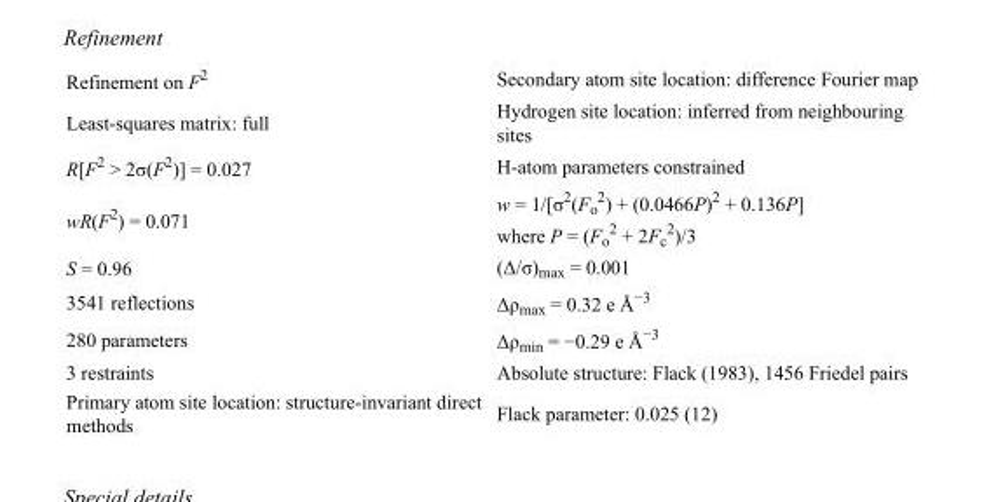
<table><tbody><tr><td>Refinement on F<sup>2</sup></td><td>Secondary atom site location: difference Fourier map</td></tr><tr><td>Least-squares matrix: full</td><td>Hydrogen site location: inferred from neighbouring sites</td></tr><tr><td>R[F<sup>2</sup> &gt; 2σ(F<sup>2</sup>)] = 0.027</td><td>H-atom parameters constrained</td></tr><tr><td>wR(F<sup>2</sup>) = 0.071</td><td>w = 1/[σ<sup>2</sup>(F<sub>o</sub> <sup>2</sup>) + (0.0466P)<sup>2</sup> + 0.136P] where P = (F<sub>o</sub> <sup>2</sup> + 2F<sub>c</sub> <sup>2</sup>)/3</td></tr><tr><td>S = 0.96</td><td>(Δ/σ)<sub>max</sub> = 0.001</td></tr><tr><td>3541 reflections</td><td>Δρ<sub>max</sub> = 0.32 e Å<sup>−3</sup></td></tr><tr><td>280 parameters</td><td>Δρ<sub>min</sub> = −0.29 e Å<sup>−3</sup></td></tr><tr><td>3 restraints</td><td>Absolute structure: Flack (1983), 1456 Friedel pairs</td></tr><tr><td>Primary atom site location: structure-invariant direct methods</td><td>Flack parameter: 0.025 (12)</td></tr></tbody></table>